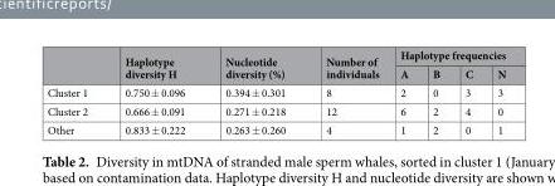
<table><thead><tr><td rowspan="2"></td><td rowspan="2">Haplotype diversity H</td><td rowspan="2">Nucleotide diversity (%)</td><td rowspan="2">Number of individuals</td><td colspan="4">Haplotype frequencies</td></tr><tr><td>A</td><td>B</td><td>C</td><td>N</td></tr></thead><tbody><tr><td>Cluster 1</td><td>0.750 ± 0.096</td><td>0.394 ± 0.301</td><td>8</td><td>2</td><td>0</td><td>3</td><td>3</td></tr><tr><td>Cluster 2</td><td>0.666 ± 0.091</td><td>0.271 ± 0.218</td><td>12</td><td>6</td><td>2</td><td>4</td><td>0</td></tr><tr><td>Other</td><td>0.833 ± 0.222</td><td>0.263 ± 0.260</td><td>4</td><td>1</td><td>2</td><td>0</td><td>1</td></tr></tbody></table>